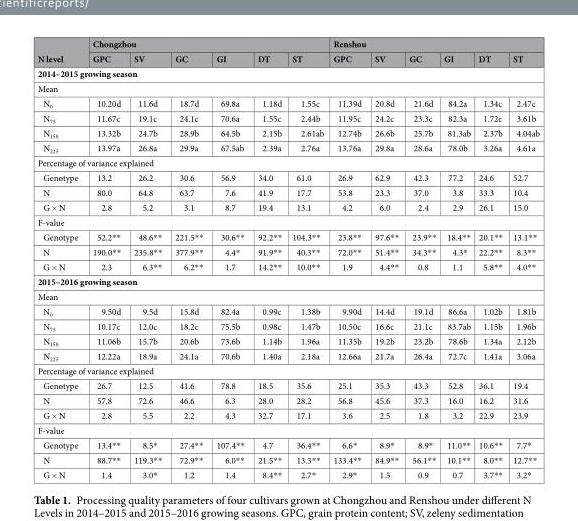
<table><thead><tr><td rowspan="2">N level</td><td colspan="6">Chongzhou</td><td colspan="6">Renshou</td></tr><tr><td>GPC</td><td>SV</td><td>GC</td><td>GI</td><td>DT</td><td>ST</td><td>GPC</td><td>SV</td><td>GC</td><td>GI</td><td>DT</td><td>ST</td></tr></thead><tbody><tr><td colspan="13">2014–2015 growing season</td></tr><tr><td colspan="13">Mean</td></tr><tr><td>N<sub>0</sub></td><td>10.20d</td><td>11.6d</td><td>18.7d</td><td>69.8a</td><td>1.18d</td><td>1.55c</td><td>11.39d</td><td>20.8d</td><td>21.6d</td><td>84.2a</td><td>1.34c</td><td>2.47c</td></tr><tr><td>N<sub>75</sub></td><td>11.67c</td><td>19.1c</td><td>24.1c</td><td>70.6a</td><td>1.55c</td><td>2.44b</td><td>11.95c</td><td>24.2c</td><td>23.3c</td><td>82.3a</td><td>1.72c</td><td>3.61b</td></tr><tr><td>N<sub>150</sub></td><td>13.32b</td><td>24.7b</td><td>28.9b</td><td>64.5b</td><td>2.15b</td><td>2.61ab</td><td>12.74b</td><td>26.6b</td><td>25.7b</td><td>81.3ab</td><td>2.37b</td><td>4.04ab</td></tr><tr><td>N<sub>225</sub></td><td>13.97a</td><td>26.8a</td><td>29.9a</td><td>67.5ab</td><td>2.39a</td><td>2.76a</td><td>13.76a</td><td>29.8a</td><td>28.6a</td><td>78.0b</td><td>3.26a</td><td>4.61a</td></tr><tr><td colspan="13">Percentage of variance explained</td></tr><tr><td>Genotype</td><td>13.2</td><td>26.2</td><td>30.6</td><td>56.9</td><td>34.0</td><td>61.0</td><td>26.9</td><td>62.9</td><td>42.3</td><td>77.2</td><td>24.6</td><td>52.7</td></tr><tr><td>N</td><td>80.0</td><td>64.8</td><td>63.7</td><td>7.6</td><td>41.9</td><td>17.7</td><td>53.8</td><td>23.3</td><td>37.0</td><td>3.8</td><td>33.3</td><td>10.4</td></tr><tr><td>G × N</td><td>2.8</td><td>5.2</td><td>3.1</td><td>8.7</td><td>19.4</td><td>13.1</td><td>4.2</td><td>6.0</td><td>2.4</td><td>2.9</td><td>26.1</td><td>15.0</td></tr><tr><td colspan="13">F-value</td></tr><tr><td>Genotype</td><td>52.2**</td><td>48.6**</td><td>221.5**</td><td>30.6**</td><td>92.2**</td><td>104.3**</td><td>23.8**</td><td>97.6**</td><td>23.9**</td><td>18.4**</td><td>20.1**</td><td>13.1**</td></tr><tr><td>N</td><td>190.0**</td><td>235.8**</td><td>377.9**</td><td>4.4*</td><td>91.9**</td><td>40.3**</td><td>72.0**</td><td>51.4**</td><td>34.3**</td><td>4.3*</td><td>22.2**</td><td>8.3**</td></tr><tr><td>G × N</td><td>2.3</td><td>6.3**</td><td>6.2**</td><td>1.7</td><td>14.2**</td><td>10.0**</td><td>1.9</td><td>4.4**</td><td>0.8</td><td>1.1</td><td>5.8**</td><td>4.0**</td></tr><tr><td colspan="13">2015–2016 growing season</td></tr><tr><td colspan="13">Mean</td></tr><tr><td>N<sub>0</sub></td><td>9.50d</td><td>9.5d</td><td>15.8d</td><td>82.4a</td><td>0.99c</td><td>1.38b</td><td>9.90d</td><td>14.4d</td><td>19.1d</td><td>86.6a</td><td>1.02b</td><td>1.81b</td></tr><tr><td>N<sub>75</sub></td><td>10.17c</td><td>12.0c</td><td>18.2c</td><td>75.5b</td><td>0.98c</td><td>1.47b</td><td>10.50c</td><td>16.6c</td><td>21.1c</td><td>83.7ab</td><td>1.15b</td><td>1.96b</td></tr><tr><td>N<sub>150</sub></td><td>11.06b</td><td>15.7b</td><td>20.6b</td><td>73.6b</td><td>1.14b</td><td>1.96a</td><td>11.35b</td><td>19.2b</td><td>23.2b</td><td>78.6b</td><td>1.34a</td><td>2.12b</td></tr><tr><td>N<sub>225</sub></td><td>12.22a</td><td>18.9a</td><td>24.1a</td><td>70.6b</td><td>1.40a</td><td>2.18a</td><td>12.66a</td><td>21.7a</td><td>26.4a</td><td>72.7c</td><td>1.41a</td><td>3.06a</td></tr><tr><td colspan="13">Percentage of variance explained</td></tr><tr><td>Genotype</td><td>26.7</td><td>12.5</td><td>41.6</td><td>78.8</td><td>18.5</td><td>35.6</td><td>25.1</td><td>35.3</td><td>43.3</td><td>52.8</td><td>36.1</td><td>19.4</td></tr><tr><td>N</td><td>57.8</td><td>72.6</td><td>46.6</td><td>6.3</td><td>28.0</td><td>28.2</td><td>56.8</td><td>45.6</td><td>37.3</td><td>16.0</td><td>16.2</td><td>31.6</td></tr><tr><td>G × N</td><td>2.8</td><td>5.5</td><td>2.2</td><td>4.3</td><td>32.7</td><td>17.1</td><td>3.6</td><td>2.5</td><td>1.8</td><td>3.2</td><td>22.9</td><td>23.9</td></tr><tr><td colspan="13">F-value</td></tr><tr><td>Genotype</td><td>13.4**</td><td>8.5*</td><td>27.4**</td><td>107.4**</td><td>4.7</td><td>36.4**</td><td>6.6*</td><td>8.9*</td><td>8.9*</td><td>11.0**</td><td>10.6**</td><td>7.7*</td></tr><tr><td>N</td><td>88.7**</td><td>119.3**</td><td>72.9**</td><td>6.0**</td><td>21.5**</td><td>13.3**</td><td>133.4**</td><td>84.9**</td><td>56.1**</td><td>10.1**</td><td>8.0**</td><td>12.7**</td></tr><tr><td>G × N</td><td>1.4</td><td>3.0*</td><td>1.2</td><td>1.4</td><td>8.4**</td><td>2.7*</td><td>2.9*</td><td>1.5</td><td>0.9</td><td>0.7</td><td>3.7**</td><td>3.2*</td></tr></tbody></table>